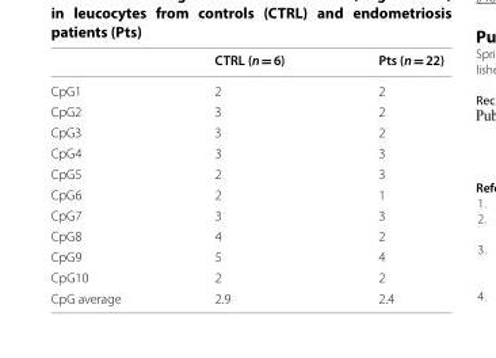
<table><thead><tr><td></td><td>CTRL (n = 6)</td><td>Pts (n = 22)</td></tr></thead><tbody><tr><td>CpG1</td><td>2</td><td>2</td></tr><tr><td>CpG2</td><td>3</td><td>2</td></tr><tr><td>CpG3</td><td>3</td><td>2</td></tr><tr><td>CpG4</td><td>3</td><td>3</td></tr><tr><td>CpG5</td><td>2</td><td>3</td></tr><tr><td>CpG6</td><td>2</td><td>1</td></tr><tr><td>CpG7</td><td>3</td><td>3</td></tr><tr><td>CpG8</td><td>4</td><td>2</td></tr><tr><td>CpG9</td><td>5</td><td>4</td></tr><tr><td>CpG10</td><td>2</td><td>2</td></tr><tr><td>CpG average</td><td>2.9</td><td>2.4</td></tr></tbody></table>